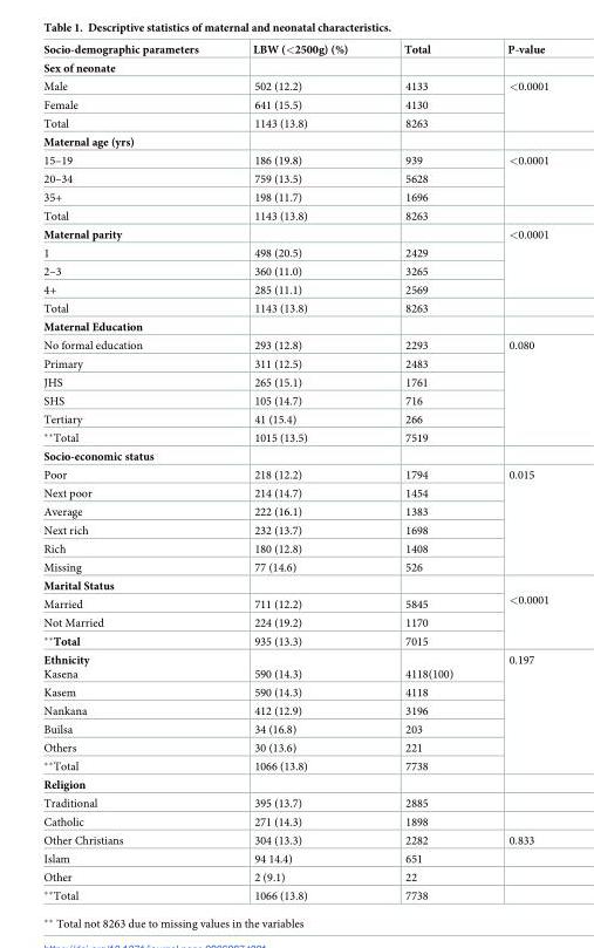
<table><thead><tr><td>Socio-demographic parameters</td><td>LBW (&lt;2500g) (%)</td><td>Total</td><td>P-value</td></tr></thead><tbody><tr><td colspan="4">Sex of neonate</td></tr><tr><td>Male</td><td>502 (12.2)</td><td>4133</td><td rowspan="3">&lt;0.0001</td></tr><tr><td>Female</td><td>641 (15.5)</td><td>4130</td></tr><tr><td>Total</td><td>1143 (13.8)</td><td>8263</td></tr><tr><td colspan="4">Maternal age (yrs)</td></tr><tr><td>15–19</td><td>186 (19.8)</td><td>939</td><td rowspan="3">&lt;0.0001</td></tr><tr><td>20–34</td><td>759 (13.5)</td><td>5628</td></tr><tr><td>35+</td><td>198 (11.7)</td><td>1696</td></tr><tr><td>Total</td><td>1143 (13.8)</td><td>8263</td><td></td></tr><tr><td colspan="3">Maternal parity</td><td rowspan="4">&lt;0.0001</td></tr><tr><td>1</td><td>498 (20.5)</td><td>2429</td></tr><tr><td>2–3</td><td>360 (11.0)</td><td>3265</td></tr><tr><td>4+</td><td>285 (11.1)</td><td>2569</td></tr><tr><td>Total</td><td>1143 (13.8)</td><td>8263</td><td></td></tr><tr><td colspan="4">Maternal Education</td></tr><tr><td>No formal education</td><td>293 (12.8)</td><td>2293</td><td rowspan="6">0.080</td></tr><tr><td>Primary</td><td>311 (12.5)</td><td>2483</td></tr><tr><td>JHS</td><td>265 (15.1)</td><td>1761</td></tr><tr><td>SHS</td><td>105 (14.7)</td><td>716</td></tr><tr><td>Tertiary</td><td>41 (15.4)</td><td>266</td></tr><tr><td>**Total</td><td>1015 (13.5)</td><td>7519</td></tr><tr><td colspan="4">Socio-economic status</td></tr><tr><td>Poor</td><td>218 (12.2)</td><td>1794</td><td rowspan="6">0.015</td></tr><tr><td>Next poor</td><td>214 (14.7)</td><td>1454</td></tr><tr><td>Average</td><td>222 (16.1)</td><td>1383</td></tr><tr><td>Next rich</td><td>232 (13.7)</td><td>1698</td></tr><tr><td>Rich</td><td>180 (12.8)</td><td>1408</td></tr><tr><td>Missing</td><td>77 (14.6)</td><td>526</td></tr><tr><td colspan="3">Marital Status</td><td rowspan="4">&lt;0.0001</td></tr><tr><td>Married</td><td>711 (12.2)</td><td>5845</td></tr><tr><td>Not Married</td><td>224 (19.2)</td><td>1170</td></tr><tr><td>**Total</td><td>935 (13.3)</td><td>7015</td></tr><tr><td>Ethnicity Kasena</td><td>590 (14.3)</td><td>4118(100)</td><td rowspan="6">0.197</td></tr><tr><td>Kasem</td><td>590 (14.3)</td><td>4118</td></tr><tr><td>Nankana</td><td>412 (12.9)</td><td>3196</td></tr><tr><td>Builsa</td><td>34 (16.8)</td><td>203</td></tr><tr><td>Others</td><td>30 (13.6)</td><td>221</td></tr><tr><td>**Total</td><td>1066 (13.8)</td><td>7738</td></tr><tr><td colspan="4">Religion</td></tr><tr><td>Traditional</td><td>395 (13.7)</td><td>2885</td><td></td></tr><tr><td>Catholic</td><td>271 (14.3)</td><td>1898</td><td></td></tr><tr><td>Other Christians</td><td>304 (13.3)</td><td>2282</td><td>0.833</td></tr><tr><td>Islam</td><td>94 14.4)</td><td>651</td><td></td></tr><tr><td>Other</td><td>2 (9.1)</td><td>22</td><td></td></tr><tr><td>**Total</td><td>1066 (13.8)</td><td>7738</td><td></td></tr></tbody></table>